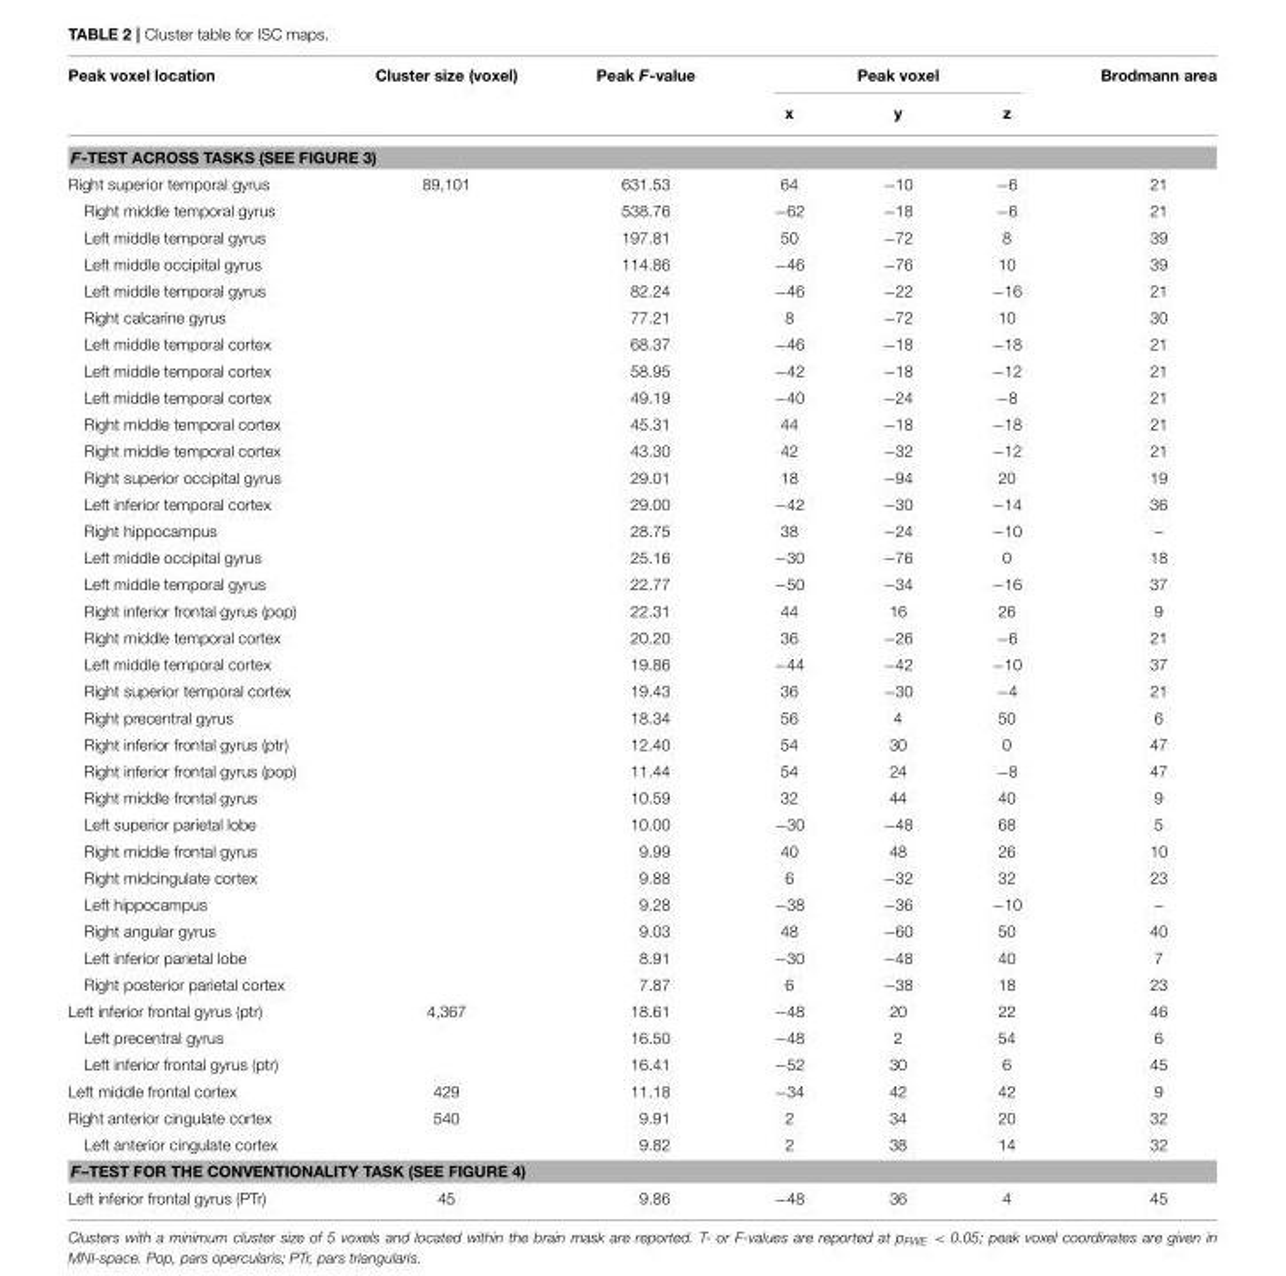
<table><thead><tr><td rowspan="2">Peak voxel location</td><td rowspan="2">Cluster size (voxel)</td><td rowspan="2">Peak F-value</td><td colspan="3">Peak voxel</td><td rowspan="2">Brodmann area</td></tr><tr><td>x</td><td>y</td><td>z</td></tr></thead><tbody><tr><td colspan="7">F-TEST ACROSS TASKS (SEE FIGURE 3)</td></tr><tr><td>Right superior temporal gyrus</td><td>89,101</td><td>631.53</td><td>64</td><td>−10</td><td>−6</td><td>21</td></tr><tr><td>Right middle temporal gyrus</td><td></td><td>538.76</td><td>−62</td><td>−18</td><td>−6</td><td>21</td></tr><tr><td>Left middle temporal gyrus</td><td></td><td>197.81</td><td>50</td><td>−72</td><td>8</td><td>39</td></tr><tr><td>Left middle occipital gyrus</td><td></td><td>114.86</td><td>−46</td><td>−76</td><td>10</td><td>39</td></tr><tr><td>Left middle temporal gyrus</td><td></td><td>82.24</td><td>−46</td><td>−22</td><td>−16</td><td>21</td></tr><tr><td>Right calcarine gyrus</td><td></td><td>77.21</td><td>8</td><td>−72</td><td>10</td><td>30</td></tr><tr><td>Left middle temporal cortex</td><td></td><td>68.37</td><td>−46</td><td>−18</td><td>−18</td><td>21</td></tr><tr><td>Left middle temporal cortex</td><td></td><td>58.95</td><td>−42</td><td>−18</td><td>−12</td><td>21</td></tr><tr><td>Left middle temporal cortex</td><td></td><td>49.19</td><td>−40</td><td>−24</td><td>−8</td><td>21</td></tr><tr><td>Right middle temporal cortex</td><td></td><td>45.31</td><td>44</td><td>−18</td><td>−18</td><td>21</td></tr><tr><td>Right middle temporal cortex</td><td></td><td>43.30</td><td>42</td><td>−32</td><td>−12</td><td>21</td></tr><tr><td>Right superior occipital gyrus</td><td></td><td>29.01</td><td>18</td><td>−94</td><td>20</td><td>19</td></tr><tr><td>Left inferior temporal cortex</td><td></td><td>29.00</td><td>−42</td><td>−30</td><td>−14</td><td>36</td></tr><tr><td>Right hippocampus</td><td></td><td>28.75</td><td>38</td><td>−24</td><td>−10</td><td>–</td></tr><tr><td>Left middle occipital gyrus</td><td></td><td>25.16</td><td>−30</td><td>−76</td><td>0</td><td>18</td></tr><tr><td>Left middle temporal gyrus</td><td></td><td>22.77</td><td>−50</td><td>−34</td><td>−16</td><td>37</td></tr><tr><td>Right inferior frontal gyrus (pop)</td><td></td><td>22.31</td><td>44</td><td>16</td><td>26</td><td>9</td></tr><tr><td>Right middle temporal cortex</td><td></td><td>20.20</td><td>36</td><td>−26</td><td>−6</td><td>21</td></tr><tr><td>Left middle temporal cortex</td><td></td><td>19.86</td><td>−44</td><td>−42</td><td>−10</td><td>37</td></tr><tr><td>Right superior temporal cortex</td><td></td><td>19.43</td><td>36</td><td>−30</td><td>−4</td><td>21</td></tr><tr><td>Right precentral gyrus</td><td></td><td>18.34</td><td>56</td><td>4</td><td>50</td><td>6</td></tr><tr><td>Right inferior frontal gyrus (ptr)</td><td></td><td>12.40</td><td>54</td><td>30</td><td>0</td><td>47</td></tr><tr><td>Right inferior frontal gyrus (pop)</td><td></td><td>11.44</td><td>54</td><td>24</td><td>−8</td><td>47</td></tr><tr><td>Right middle frontal gyrus</td><td></td><td>10.59</td><td>32</td><td>44</td><td>40</td><td>9</td></tr><tr><td>Left superior parietal lobe</td><td></td><td>10.00</td><td>−30</td><td>−48</td><td>68</td><td>5</td></tr><tr><td>Right middle frontal gyrus</td><td></td><td>9.99</td><td>40</td><td>48</td><td>26</td><td>10</td></tr><tr><td>Right midcingulate cortex</td><td></td><td>9.88</td><td>6</td><td>−32</td><td>32</td><td>23</td></tr><tr><td>Left hippocampus</td><td></td><td>9.28</td><td>−38</td><td>−36</td><td>−10</td><td>–</td></tr><tr><td>Right angular gyrus</td><td></td><td>9.03</td><td>48</td><td>−60</td><td>50</td><td>40</td></tr><tr><td>Left inferior parietal lobe</td><td></td><td>8.91</td><td>−30</td><td>−48</td><td>40</td><td>7</td></tr><tr><td>Right posterior parietal cortex</td><td></td><td>7.87</td><td>6</td><td>−38</td><td>18</td><td>23</td></tr><tr><td>Left inferior frontal gyrus (ptr)</td><td>4,367</td><td>18.61</td><td>−48</td><td>20</td><td>22</td><td>46</td></tr><tr><td>Left precentral gyrus</td><td></td><td>16.50</td><td>−48</td><td>2</td><td>54</td><td>6</td></tr><tr><td>Left inferior frontal gyrus (ptr)</td><td></td><td>16.41</td><td>−52</td><td>30</td><td>6</td><td>45</td></tr><tr><td>Left middle frontal cortex</td><td>429</td><td>11.18</td><td>−34</td><td>42</td><td>42</td><td>9</td></tr><tr><td>Right anterior cingulate cortex</td><td>540</td><td>9.91</td><td>2</td><td>34</td><td>20</td><td>32</td></tr><tr><td>Left anterior cingulate cortex</td><td></td><td>9.82</td><td>2</td><td>38</td><td>14</td><td>32</td></tr><tr><td colspan="7">F–TEST FOR THE CONVENTIONALITY TASK (SEE FIGURE 4)</td></tr><tr><td>Left inferior frontal gyrus (PTr)</td><td>45</td><td>9.86</td><td>−48</td><td>36</td><td>4</td><td>45</td></tr></tbody></table>